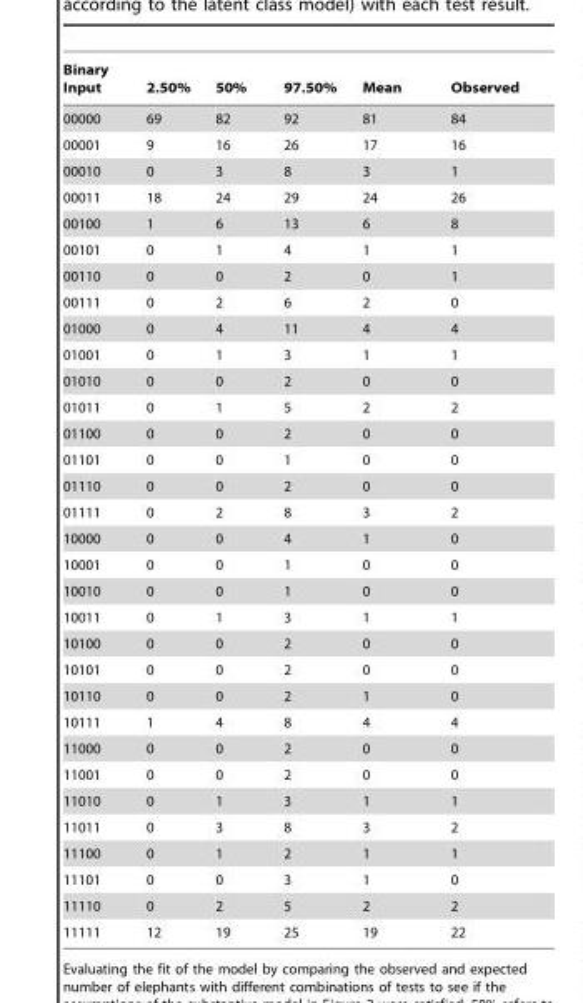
<table><thead><tr><td>Binary Input</td><td>2.50%</td><td>50%</td><td>97.50%</td><td>Mean</td><td>Observed</td></tr></thead><tbody><tr><td>00000</td><td>69</td><td>82</td><td>92</td><td>81</td><td>84</td></tr><tr><td>00001</td><td>9</td><td>16</td><td>26</td><td>17</td><td>16</td></tr><tr><td>00010</td><td>0</td><td>3</td><td>8</td><td>3</td><td>1</td></tr><tr><td>00011</td><td>18</td><td>24</td><td>29</td><td>24</td><td>26</td></tr><tr><td>00100</td><td>1</td><td>6</td><td>13</td><td>6</td><td>8</td></tr><tr><td>00101</td><td>0</td><td>1</td><td>4</td><td>1</td><td>1</td></tr><tr><td>00110</td><td>0</td><td>0</td><td>2</td><td>0</td><td>1</td></tr><tr><td>00111</td><td>0</td><td>2</td><td>6</td><td>2</td><td>0</td></tr><tr><td>01000</td><td>0</td><td>4</td><td>11</td><td>4</td><td>4</td></tr><tr><td>01001</td><td>0</td><td>1</td><td>3</td><td>1</td><td>1</td></tr><tr><td>01010</td><td>0</td><td>0</td><td>2</td><td>0</td><td>0</td></tr><tr><td>01011</td><td>0</td><td>1</td><td>5</td><td>2</td><td>2</td></tr><tr><td>01100</td><td>0</td><td>0</td><td>2</td><td>0</td><td>0</td></tr><tr><td>01101</td><td>0</td><td>0</td><td>1</td><td>0</td><td>0</td></tr><tr><td>01110</td><td>0</td><td>0</td><td>2</td><td>0</td><td>0</td></tr><tr><td>01111</td><td>0</td><td>2</td><td>8</td><td>3</td><td>2</td></tr><tr><td>10000</td><td>0</td><td>0</td><td>4</td><td>1</td><td>0</td></tr><tr><td>10001</td><td>0</td><td>0</td><td>1</td><td>0</td><td>0</td></tr><tr><td>10010</td><td>0</td><td>0</td><td>1</td><td>0</td><td>0</td></tr><tr><td>10011</td><td>0</td><td>1</td><td>3</td><td>1</td><td>1</td></tr><tr><td>10100</td><td>0</td><td>0</td><td>2</td><td>0</td><td>0</td></tr><tr><td>10101</td><td>0</td><td>0</td><td>2</td><td>0</td><td>0</td></tr><tr><td>10110</td><td>0</td><td>0</td><td>2</td><td>1</td><td>0</td></tr><tr><td>10111</td><td>1</td><td>4</td><td>8</td><td>4</td><td>4</td></tr><tr><td>11000</td><td>0</td><td>0</td><td>2</td><td>0</td><td>0</td></tr><tr><td>11001</td><td>0</td><td>0</td><td>2</td><td>0</td><td>0</td></tr><tr><td>11010</td><td>0</td><td>1</td><td>3</td><td>1</td><td>1</td></tr><tr><td>11011</td><td>0</td><td>3</td><td>8</td><td>3</td><td>2</td></tr><tr><td>11100</td><td>0</td><td>1</td><td>2</td><td>1</td><td>1</td></tr><tr><td>11101</td><td>0</td><td>0</td><td>3</td><td>1</td><td>0</td></tr><tr><td>11110</td><td>0</td><td>2</td><td>5</td><td>2</td><td>2</td></tr><tr><td>11111</td><td>12</td><td>19</td><td>25</td><td>19</td><td>22</td></tr></tbody></table>